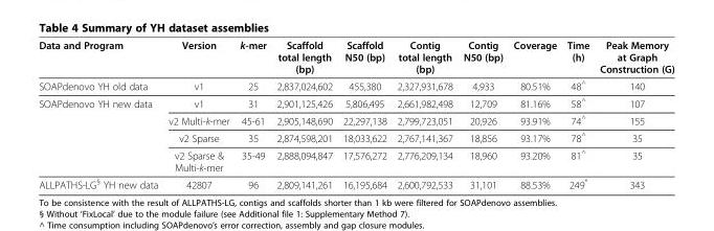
<table><thead><tr><td>Data and Program</td><td>Version</td><td>k-mer</td><td>Scaffold total length (bp)</td><td>Scaffold N50 (bp)</td><td>Contig total length (bp)</td><td>Contig N50 (bp)</td><td>Coverage</td><td>Time (h)</td><td>Peak Memory at Graph Construction (G)</td></tr></thead><tbody><tr><td>SOAPdenovo YH old data</td><td>v1</td><td>25</td><td>2,837,024,602</td><td>455,380</td><td>2,327,931,678</td><td>4,933</td><td>80.51%</td><td>48<sup>^</sup></td><td>140</td></tr><tr><td rowspan="4">SOAPdenovo YH new data</td><td>v1</td><td>31</td><td>2,901,125,426</td><td>5,806,495</td><td>2,661,982,498</td><td>12,709</td><td>81.16%</td><td>58<sup>^</sup></td><td>107</td></tr><tr><td>v2 Multi-k-mer</td><td>45-61</td><td>2,905,148,690</td><td>22,297,138</td><td>2,799,723,051</td><td>20,926</td><td>93.91%</td><td>74<sup>^</sup></td><td>155</td></tr><tr><td>v2 Sparse</td><td>35</td><td>2,874,598,201</td><td>18,033,622</td><td>2,767,141,367</td><td>18,856</td><td>93.17%</td><td>78<sup>^</sup></td><td>35</td></tr><tr><td>v2 Sparse &amp; Multi-k-mer</td><td>35-49</td><td>2,888,094,847</td><td>17,576,272</td><td>2,776,209,134</td><td>18,960</td><td>93.20%</td><td>81<sup>^</sup></td><td>35</td></tr><tr><td>ALLPATHS-LG<sup>§</sup> YH new data</td><td>42807</td><td>96</td><td>2,809,141,261</td><td>16,195,684</td><td>2,600,792,533</td><td>31,101</td><td>88.53%</td><td>249*</td><td>343</td></tr></tbody></table>